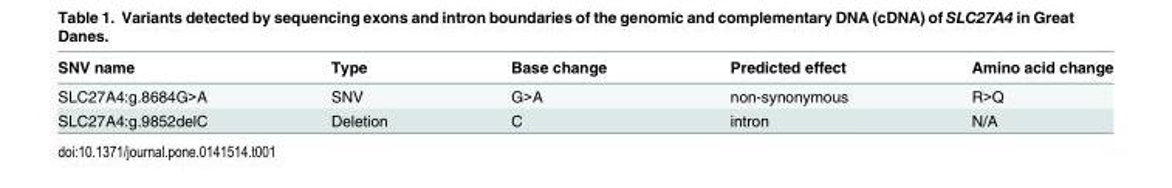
<table><thead><tr><td>SNV name</td><td>Type</td><td>Base change</td><td>Predicted effect</td><td>Amino acid change</td></tr></thead><tbody><tr><td>SLC27A4:g.8684G&gt;A</td><td>SNV</td><td>G&gt;A</td><td>non-synonymous</td><td>R&gt;Q</td></tr><tr><td>SLC27A4:g.9852delC</td><td>Deletion</td><td>C</td><td>intron</td><td>N/A</td></tr></tbody></table>